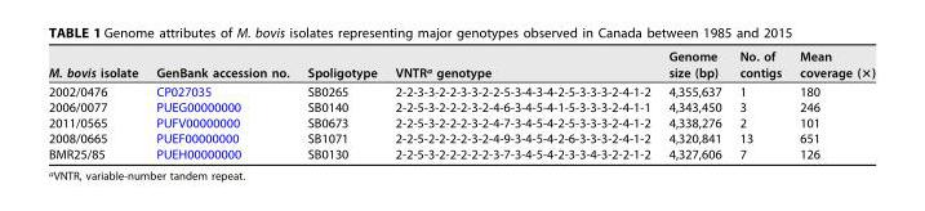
<table><thead><tr><td>M. bovis isolate</td><td>GenBank accession no.</td><td>Spoligotype</td><td>VNTR<sup>a</sup> genotype</td><td>Genome size (bp)</td><td>No. of contigs</td><td>Mean coverage (×)</td></tr></thead><tbody><tr><td>2002/0476</td><td>CP027035</td><td>SB0265</td><td>2-2-3-3-2-2-3-3-2-2-5-3-4-3-4-2-5-3-3-3-2-4-1-2</td><td>4,355,637</td><td>1</td><td>180</td></tr><tr><td>2006/0077</td><td>PUEG00000000</td><td>SB0140</td><td>2-2-5-3-2-2-2-3-2-4-6-3-4-5-4-1-5-3-3-3-2-4-1-1</td><td>4,343,450</td><td>3</td><td>246</td></tr><tr><td>2011/0565</td><td>PUFV00000000</td><td>SB0673</td><td>2-2-5-3-2-2-2-3-2-4-7-3-4-5-4-2-5-3-3-3-2-4-1-2</td><td>4,338,276</td><td>2</td><td>101</td></tr><tr><td>2008/0665</td><td>PUEF00000000</td><td>SB1071</td><td>2-2-5-2-2-2-2-3-2-4-9-3-4-5-4-2-6-3-3-3-2-4-1-2</td><td>4,320,841</td><td>13</td><td>651</td></tr><tr><td>BMR25/85</td><td>PUEH00000000</td><td>SB0130</td><td>2-2-5-3-2-2-2-2-2-3-7-3-4-5-4-2-3-3-4-3-2-2-1-2</td><td>4,327,606</td><td>7</td><td>126</td></tr></tbody></table>